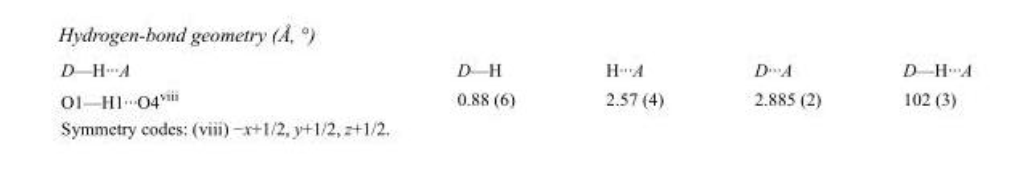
<table><tbody><tr><td>D—H···A</td><td>D—H</td><td>H···A</td><td>D···A</td><td>D—H···A</td></tr><tr><td>O1—H1···O4<sup>viii</sup></td><td>0.88 (6)</td><td>2.57 (4)</td><td>2.885 (2)</td><td>102 (3)</td></tr></tbody></table>